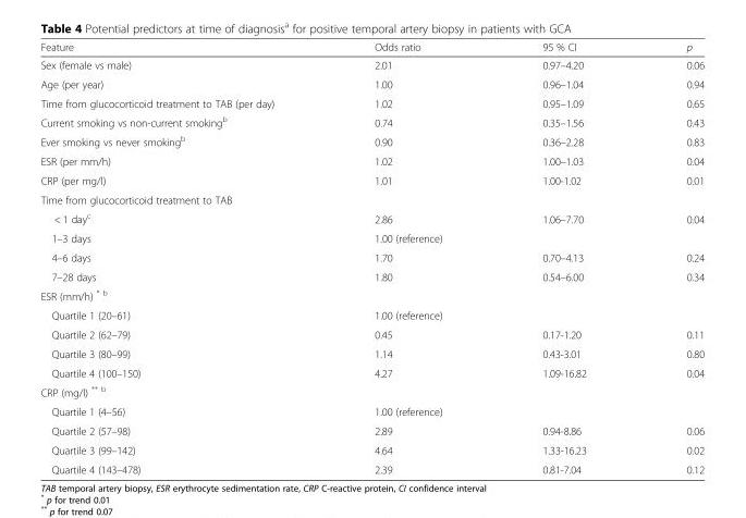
<table><thead><tr><td>Feature</td><td>Odds ratio</td><td>95 % CI</td><td>p</td></tr></thead><tbody><tr><td>Sex (female vs male)</td><td>2.01</td><td>0.97–4.20</td><td>0.06</td></tr><tr><td>Age (per year)</td><td>1.00</td><td>0.96–1.04</td><td>0.94</td></tr><tr><td>Time from glucocorticoid treatment to TAB (per day)</td><td>1.02</td><td>0.95–1.09</td><td>0.65</td></tr><tr><td>Current smoking vs non-current smoking<sup>b</sup></td><td>0.74</td><td>0.35–1.56</td><td>0.43</td></tr><tr><td>Ever smoking vs never smoking<sup>b</sup></td><td>0.90</td><td>0.36–2.28</td><td>0.83</td></tr><tr><td>ESR (per mm/h)</td><td>1.02</td><td>1.00–1.03</td><td>0.04</td></tr><tr><td>CRP (per mg/l)</td><td>1.01</td><td>1.00-1.02</td><td>0.01</td></tr><tr><td colspan="4">Time from glucocorticoid treatment to TAB</td></tr><tr><td>&lt; 1 day<sup>c</sup></td><td>2.86</td><td>1.06–7.70</td><td>0.04</td></tr><tr><td>1–3 days</td><td>1.00 (reference)</td><td></td><td></td></tr><tr><td>4–6 days</td><td>1.70</td><td>0.70–4.13</td><td>0.24</td></tr><tr><td>7–28 days</td><td>1.80</td><td>0.54–6.00</td><td>0.34</td></tr><tr><td colspan="4">ESR (mm/h) <sup>* b</sup></td></tr><tr><td>Quartile 1 (20–61)</td><td>1.00 (reference)</td><td></td><td></td></tr><tr><td>Quartile 2 (62–79)</td><td>0.45</td><td>0.17-1.20</td><td>0.11</td></tr><tr><td>Quartile 3 (80–99)</td><td>1.14</td><td>0.43-3.01</td><td>0.80</td></tr><tr><td>Quartile 4 (100–150)</td><td>4.27</td><td>1.09-16.82</td><td>0.04</td></tr><tr><td colspan="4">CRP (mg/l) <sup>** b</sup></td></tr><tr><td>Quartile 1 (4–56)</td><td>1.00 (reference)</td><td></td><td></td></tr><tr><td>Quartile 2 (57–98)</td><td>2.89</td><td>0.94-8.86</td><td>0.06</td></tr><tr><td>Quartile 3 (99–142)</td><td>4.64</td><td>1.33-16.23</td><td>0.02</td></tr><tr><td>Quartile 4 (143–478)</td><td>2.39</td><td>0.81-7.04</td><td>0.12</td></tr></tbody></table>